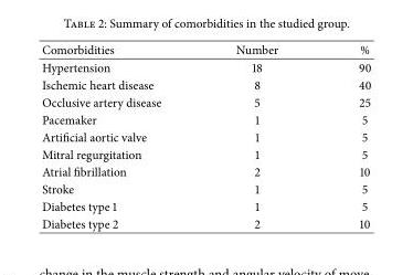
<table><thead><tr><td>Comorbidities</td><td>Number</td><td>%</td></tr></thead><tbody><tr><td>Hypertension</td><td>18</td><td>90</td></tr><tr><td>Ischemic heart disease</td><td>8</td><td>40</td></tr><tr><td>Occlusive artery disease</td><td>5</td><td>25</td></tr><tr><td>Pacemaker</td><td>1</td><td>5</td></tr><tr><td>Artificial aortic valve</td><td>1</td><td>5</td></tr><tr><td>Mitral regurgitation</td><td>1</td><td>5</td></tr><tr><td>Atrial fibrillation</td><td>2</td><td>10</td></tr><tr><td>Stroke</td><td>1</td><td>5</td></tr><tr><td>Diabetes type 1</td><td>1</td><td>5</td></tr><tr><td>Diabetes type 2</td><td>2</td><td>10</td></tr></tbody></table>